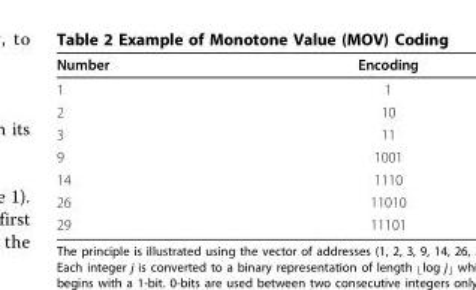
<table><thead><tr><td>Number</td><td>Encoding</td></tr></thead><tbody><tr><td>1</td><td>1</td></tr><tr><td>2</td><td>10</td></tr><tr><td>3</td><td>11</td></tr><tr><td>9</td><td>1001</td></tr><tr><td>14</td><td>1110</td></tr><tr><td>26</td><td>11010</td></tr><tr><td>29</td><td>11101</td></tr></tbody></table>